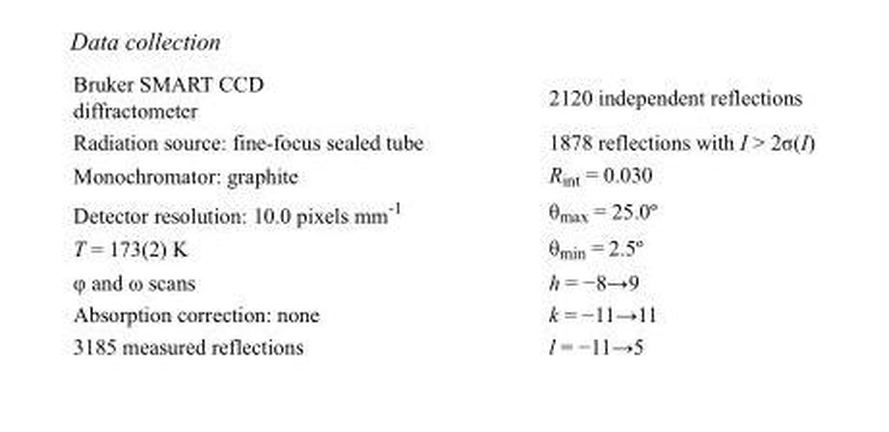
<table><tbody><tr><td>Bruker SMART CCD diffractometer</td><td>2120 independent reflections</td></tr><tr><td>Radiation source: fine-focus sealed tube</td><td>1878 reflections with I &gt; 2σ(I)</td></tr><tr><td>Monochromator: graphite</td><td>R<sub>int</sub> = 0.030</td></tr><tr><td>Detector resolution: 10.0 pixels mm<sup>-1</sup></td><td>θ<sub>max</sub> = 25.0º</td></tr><tr><td>T = 173(2) K</td><td>θ<sub>min</sub> = 2.5º</td></tr><tr><td>φ and ω scans</td><td>h = −8→9</td></tr><tr><td>Absorption correction: none</td><td>k = −11→11</td></tr><tr><td>3185 measured reflections</td><td>l = −11→5</td></tr></tbody></table>